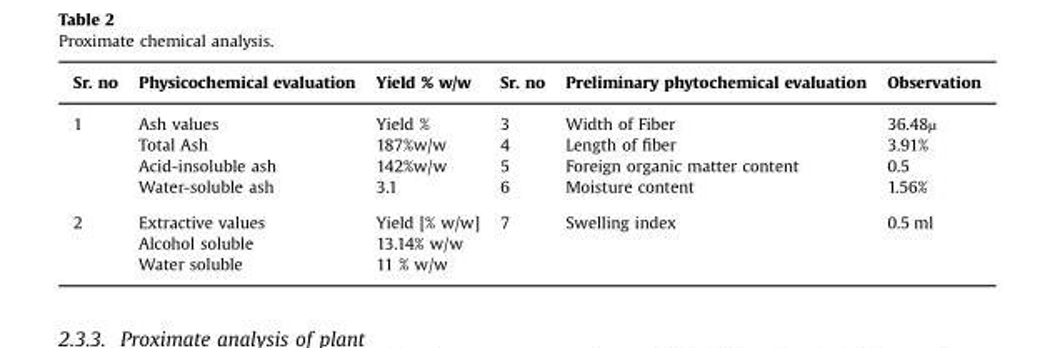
<table><thead><tr><td>Sr. no</td><td>Physicochemical evaluation</td><td>Yield % w/w</td><td>Sr. no</td><td>Preliminary phytochemical evaluation</td><td>Observation</td></tr></thead><tbody><tr><td rowspan="4">1</td><td>Ash values</td><td>Yield %</td><td>3</td><td>Width of Fiber</td><td>36.48µ</td></tr><tr><td>Total Ash</td><td>187%w/w</td><td>4</td><td>Length of fiber</td><td>3.91%</td></tr><tr><td>Acid-insoluble ash</td><td>142%w/w</td><td>5</td><td>Foreign organic matter content</td><td>0.5</td></tr><tr><td>Water-soluble ash</td><td>3.1</td><td>6</td><td>Moisture content</td><td>1.56%</td></tr><tr><td rowspan="3">2</td><td>Extractive values</td><td>Yield [% w/w]</td><td>7</td><td>Swelling index</td><td>0.5 ml</td></tr><tr><td>Alcohol soluble</td><td>13.14% w/w</td><td></td><td></td><td></td></tr><tr><td>Water soluble</td><td>11 % w/w</td><td></td><td></td><td></td></tr></tbody></table>